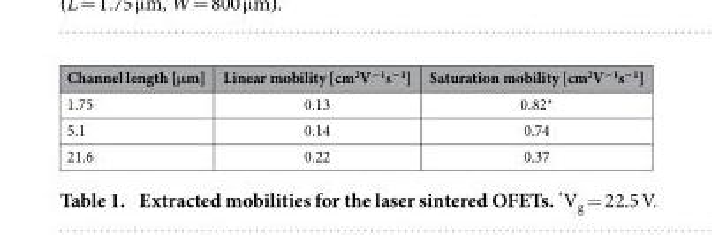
<table><thead><tr><td>Channel length [μm]</td><td>Linear mobility [cm<sup>2</sup>V<sup>−1</sup>s<sup>−1</sup>]</td><td>Saturation mobility [cm<sup>2</sup>V<sup>−1</sup>s<sup>−1</sup>]</td></tr></thead><tbody><tr><td>1.75</td><td>0.13</td><td>0.82*</td></tr><tr><td>5.1</td><td>0.14</td><td>0.74</td></tr><tr><td>21.6</td><td>0.22</td><td>0.37</td></tr></tbody></table>